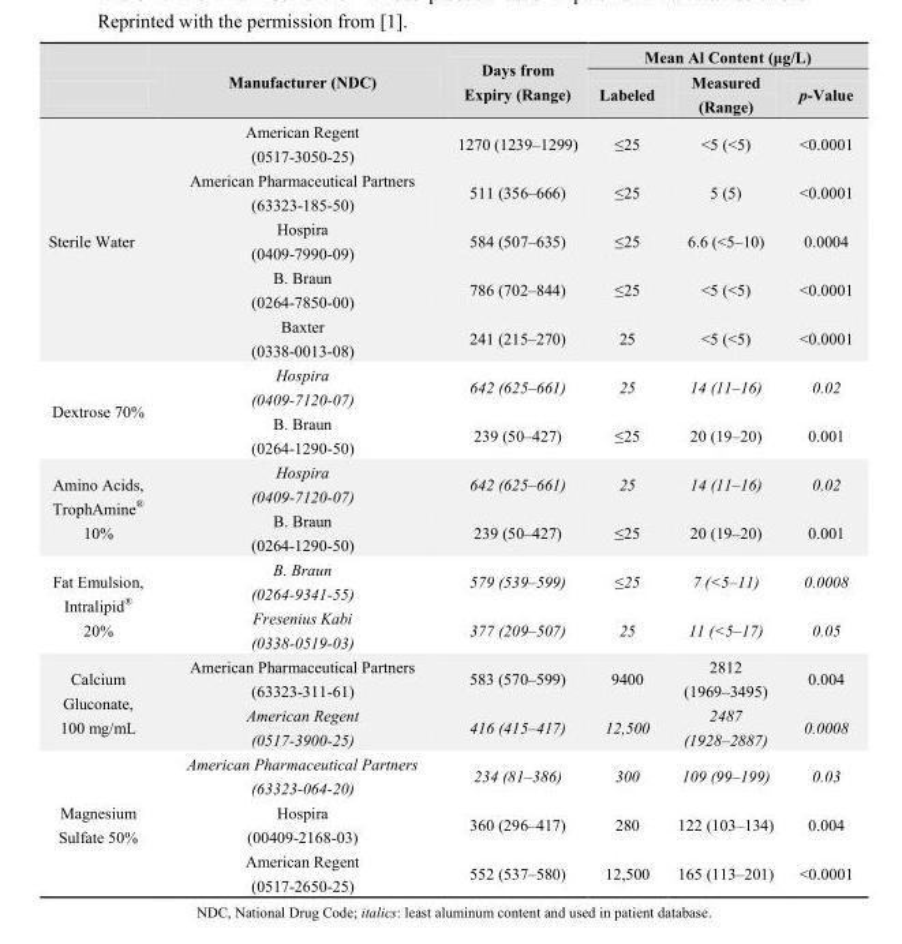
<table><thead><tr><td rowspan="2"></td><td rowspan="2">Manufacturer (NDC)</td><td rowspan="2">Days from Expiry (Range)</td><td colspan="3">Mean Al Content (μg/L)</td></tr><tr><td>Labeled</td><td>Measured (Range)</td><td>p-Value</td></tr></thead><tbody><tr><td rowspan="5">Sterile Water</td><td>American Regent (0517-3050-25)</td><td>1270 (1239–1299)</td><td>≤25</td><td>&lt;5 (&lt;5)</td><td>&lt;0.0001</td></tr><tr><td>American Pharmaceutical Partners (63323-185-50)</td><td>511 (356–666)</td><td>≤25</td><td>5 (5)</td><td>&lt;0.0001</td></tr><tr><td>Hospira (0409-7990-09)</td><td>584 (507–635)</td><td>≤25</td><td>6.6 (&lt;5–10)</td><td>0.0004</td></tr><tr><td>B. Braun (0264-7850-00)</td><td>786 (702–844)</td><td>≤25</td><td>&lt;5 (&lt;5)</td><td>&lt;0.0001</td></tr><tr><td>Baxter (0338-0013-08)</td><td>241 (215–270)</td><td>25</td><td>&lt;5 (&lt;5)</td><td>&lt;0.0001</td></tr><tr><td rowspan="2">Dextrose 70%</td><td>Hospira (0409-7120-07)</td><td>642 (625–661)</td><td>25</td><td>14 (11–16)</td><td>0.02</td></tr><tr><td>B. Braun (0264-1290-50)</td><td>239 (50–427)</td><td>≤25</td><td>20 (19–20)</td><td>0.001</td></tr><tr><td rowspan="2">Amino Acids, TrophAmine<sup>®</sup> 10%</td><td>Hospira (0409-7120-07)</td><td>642 (625–661)</td><td>25</td><td>14 (11–16)</td><td>0.02</td></tr><tr><td>B. Braun (0264-1290-50)</td><td>239 (50–427)</td><td>≤25</td><td>20 (19–20)</td><td>0.001</td></tr><tr><td rowspan="2">Fat Emulsion, Intralipid<sup>®</sup> 20%</td><td>B. Braun (0264-9341-55)</td><td>579 (539–599)</td><td>≤25</td><td>7 (&lt;5–11)</td><td>0.0008</td></tr><tr><td>Fresenius Kabi (0338-0519-03)</td><td>377 (209–507)</td><td>25</td><td>11 (&lt;5–17)</td><td>0.05</td></tr><tr><td rowspan="2">Calcium Gluconate, 100 mg/mL</td><td>American Pharmaceutical Partners (63323-311-61)</td><td>583 (570–599)</td><td>9400</td><td>2812 (1969–3495)</td><td>0.004</td></tr><tr><td>American Regent (0517-3900-25)</td><td>416 (415–417)</td><td>12,500</td><td>2487 (1928–2887)</td><td>0.0008</td></tr><tr><td rowspan="3">Magnesium Sulfate 50%</td><td>American Pharmaceutical Partners (63323-064-20)</td><td>234 (81–386)</td><td>300</td><td>109 (99–199)</td><td>0.03</td></tr><tr><td>Hospira (00409-2168-03)</td><td>360 (296–417)</td><td>280</td><td>122 (103–134)</td><td>0.004</td></tr><tr><td>American Regent (0517-2650-25)</td><td>552 (537–580)</td><td>12,500</td><td>165 (113–201)</td><td>&lt;0.0001</td></tr></tbody></table>